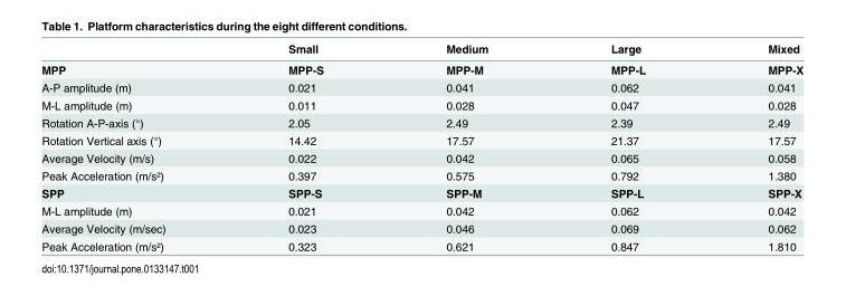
<table><thead><tr><td></td><td>Small</td><td>Medium</td><td>Large</td><td>Mixed</td></tr></thead><tbody><tr><td>MPP</td><td>MPP-S</td><td>MPP-M</td><td>MPP-L</td><td>MPP-X</td></tr><tr><td>A-P amplitude (m)</td><td>0.021</td><td>0.041</td><td>0.062</td><td>0.041</td></tr><tr><td>M-L amplitude (m)</td><td>0.011</td><td>0.028</td><td>0.047</td><td>0.028</td></tr><tr><td>Rotation A-P-axis (°)</td><td>2.05</td><td>2.49</td><td>2.39</td><td>2.49</td></tr><tr><td>Rotation Vertical axis (°)</td><td>14.42</td><td>17.57</td><td>21.37</td><td>17.57</td></tr><tr><td>Average Velocity (m/s)</td><td>0.022</td><td>0.042</td><td>0.065</td><td>0.058</td></tr><tr><td>Peak Acceleration (m/s²)</td><td>0.397</td><td>0.575</td><td>0.792</td><td>1.380</td></tr><tr><td>SPP</td><td>SPP-S</td><td>SPP-M</td><td>SPP-L</td><td>SPP-X</td></tr><tr><td>M-L amplitude (m)</td><td>0.021</td><td>0.042</td><td>0.062</td><td>0.042</td></tr><tr><td>Average Velocity (m/sec)</td><td>0.023</td><td>0.046</td><td>0.069</td><td>0.062</td></tr><tr><td>Peak Acceleration (m/s²)</td><td>0.323</td><td>0.621</td><td>0.847</td><td>1.810</td></tr></tbody></table>